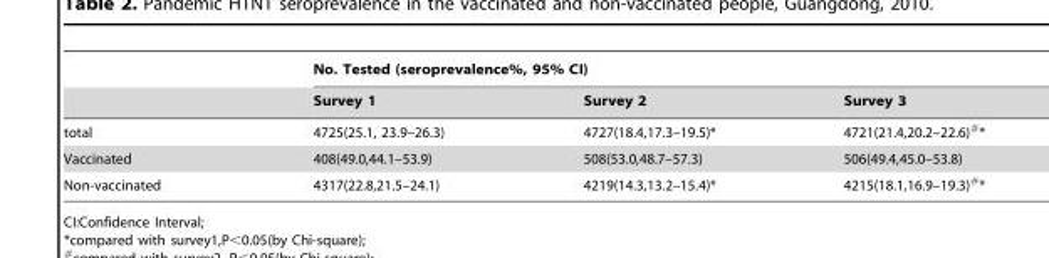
<table><thead><tr><td rowspan="2"></td><td colspan="3">No. Tested (seroprevalence%, 95% CI)</td></tr><tr><td>Survey 1</td><td>Survey 2</td><td>Survey 3</td></tr></thead><tbody><tr><td>total</td><td>4725(25.1, 23.9–26.3)</td><td>4727(18.4,17.3–19.5)*</td><td>4721(21.4,20.2–22.6)#*</td></tr><tr><td>Vaccinated</td><td>408(49.0,44.1–53.9)</td><td>508(53.0,48.7–57.3)</td><td>506(49.4,45.0–53.8)</td></tr><tr><td>Non-vaccinated</td><td>4317(22.8,21.5–24.1)</td><td>4219(14.3,13.2–15.4)*</td><td>4215(18.1,16.9–19.3)#*</td></tr></tbody></table>